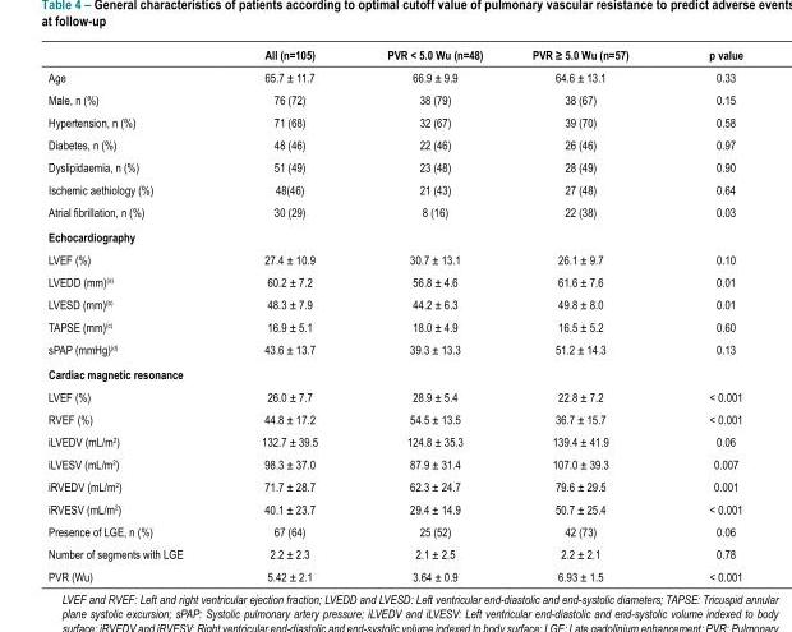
<table><thead><tr><td></td><td>All (n=105)</td><td>PVR &lt; 5.0 Wu (n=48)</td><td>PVR ≥ 5.0 Wu (n=57)</td><td>p value</td></tr></thead><tbody><tr><td>Age</td><td>65.7 ± 11.7</td><td>66.9 ± 9.9</td><td>64.6 ± 13.1</td><td>0.33</td></tr><tr><td>Male, n (%)</td><td>76 (72)</td><td>38 (79)</td><td>38 (67)</td><td>0.15</td></tr><tr><td>Hypertension, n (%)</td><td>71 (68)</td><td>32 (67)</td><td>39 (70)</td><td>0.58</td></tr><tr><td>Diabetes, n (%)</td><td>48 (46)</td><td>22 (46)</td><td>26 (46)</td><td>0.97</td></tr><tr><td>Dyslipidaemia, n (%)</td><td>51 (49)</td><td>23 (48)</td><td>28 (49)</td><td>0.90</td></tr><tr><td>Ischemic aethiology (%)</td><td>48(46)</td><td>21 (43)</td><td>27 (48)</td><td>0.64</td></tr><tr><td>Atrial fibrillation, n (%)</td><td>30 (29)</td><td>8 (16)</td><td>22 (38)</td><td>0.03</td></tr><tr><td colspan="5">Echocardiography</td></tr><tr><td>LVEF (%)</td><td>27.4 ± 10.9</td><td>30.7 ± 13.1</td><td>26.1 ± 9.7</td><td>0.10</td></tr><tr><td>LVEDD (mm)<sup>(a)</sup></td><td>60.2 ± 7.2</td><td>56.8 ± 4.6</td><td>61.6 ± 7.6</td><td>0.01</td></tr><tr><td>LVESD (mm)<sup>(b)</sup></td><td>48.3 ± 7.9</td><td>44.2 ± 6.3</td><td>49.8 ± 8.0</td><td>0.01</td></tr><tr><td>TAPSE (mm)<sup>(c)</sup></td><td>16.9 ± 5.1</td><td>18.0 ± 4.9</td><td>16.5 ± 5.2</td><td>0.60</td></tr><tr><td>sPAP (mmHg)<sup>(d)</sup></td><td>43.6 ± 13.7</td><td>39.3 ± 13.3</td><td>51.2 ± 14.3</td><td>0.13</td></tr><tr><td colspan="5">Cardiac magnetic resonance</td></tr><tr><td>LVEF (%)</td><td>26.0 ± 7.7</td><td>28.9 ± 5.4</td><td>22.8 ± 7.2</td><td>&lt; 0.001</td></tr><tr><td>RVEF (%)</td><td>44.8 ± 17.2</td><td>54.5 ± 13.5</td><td>36.7 ± 15.7</td><td>&lt; 0.001</td></tr><tr><td>iLVEDV (mL/m<sup>2</sup>)</td><td>132.7 ± 39.5</td><td>124.8 ± 35.3</td><td>139.4 ± 41.9</td><td>0.06</td></tr><tr><td>iLVESV (mL/m<sup>2</sup>)</td><td>98.3 ± 37.0</td><td>87.9 ± 31.4</td><td>107.0 ± 39.3</td><td>0.007</td></tr><tr><td>iRVEDV (mL/m<sup>2</sup>)</td><td>71.7 ± 28.7</td><td>62.3 ± 24.7</td><td>79.6 ± 29.5</td><td>0.001</td></tr><tr><td>iRVESV (mL/m<sup>2</sup>)</td><td>40.1 ± 23.7</td><td>29.4 ± 14.9</td><td>50.7 ± 25.4</td><td>&lt; 0.001</td></tr><tr><td>Presence of LGE, n (%)</td><td>67 (64)</td><td>25 (52)</td><td>42 (73)</td><td>0.06</td></tr><tr><td>Number of segments with LGE</td><td>2.2 ± 2.3</td><td>2.1 ± 2.5</td><td>2.2 ± 2.1</td><td>0.78</td></tr><tr><td>PVR (Wu)</td><td>5.42 ± 2.1</td><td>3.64 ± 0.9</td><td>6.93 ± 1.5</td><td>&lt; 0.001</td></tr></tbody></table>